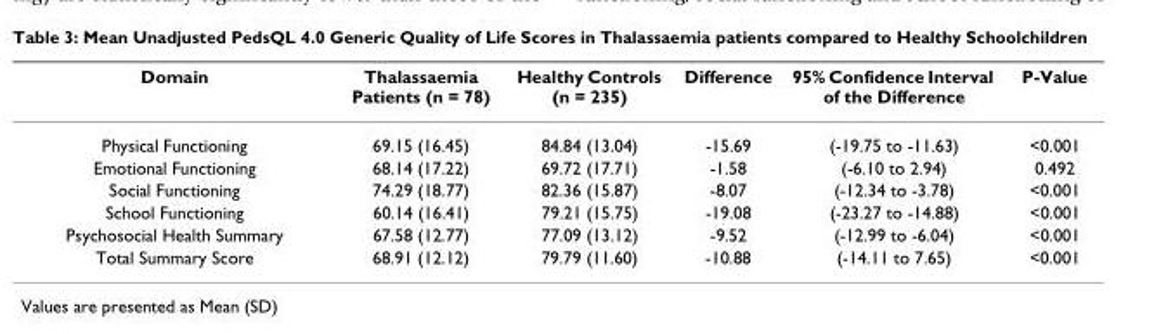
<table><thead><tr><td>Domain</td><td>Thalassaemia Patients (n = 78)</td><td>Healthy Controls (n = 235)</td><td>Difference</td><td>95% Confidence Interval of the Difference</td><td>P-Value</td></tr></thead><tbody><tr><td>Physical Functioning</td><td>69.15 (16.45)</td><td>84.84 (13.04)</td><td>-15.69</td><td>(-19.75 to -11.63)</td><td>&lt;0.001</td></tr><tr><td>Emotional Functioning</td><td>68.14 (17.22)</td><td>69.72 (17.71)</td><td>-1.58</td><td>(-6.10 to 2.94)</td><td>0.492</td></tr><tr><td>Social Functioning</td><td>74.29 (18.77)</td><td>82.36 (15.87)</td><td>-8.07</td><td>(-12.34 to -3.78)</td><td>&lt;0.001</td></tr><tr><td>School Functioning</td><td>60.14 (16.41)</td><td>79.21 (15.75)</td><td>-19.08</td><td>(-23.27 to -14.88)</td><td>&lt;0.001</td></tr><tr><td>Psychosocial Health Summary</td><td>67.58 (12.77)</td><td>77.09 (13.12)</td><td>-9.52</td><td>(-12.99 to -6.04)</td><td>&lt;0.001</td></tr><tr><td>Total Summary Score</td><td>68.91 (12.12)</td><td>79.79 (11.60)</td><td>-10.88</td><td>(-14.11 to 7.65)</td><td>&lt;0.001</td></tr></tbody></table>